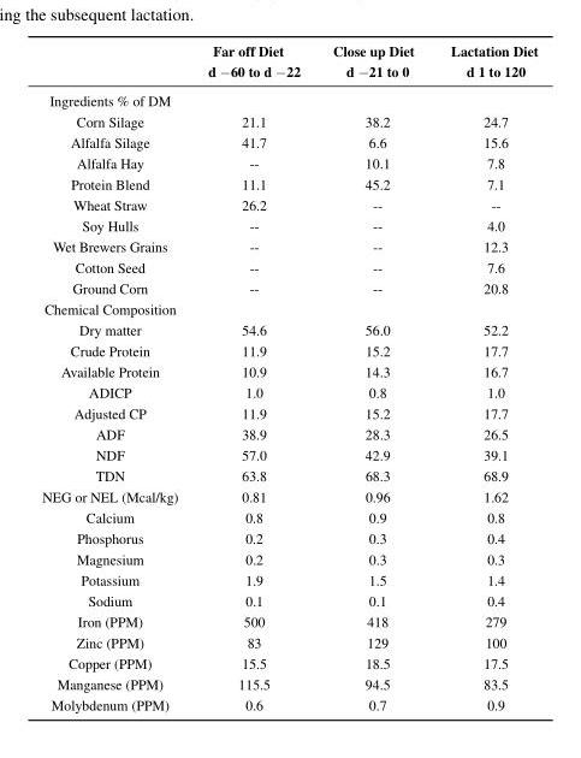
<table><thead><tr><td></td><td>Far off Diet d −60 to d −22</td><td>Close up Diet d −21 to 0</td><td>Lactation Diet d 1 to 120</td></tr></thead><tbody><tr><td colspan="4">Ingredients % of DM</td></tr><tr><td>Corn Silage</td><td>21.1</td><td>38.2</td><td>24.7</td></tr><tr><td>Alfalfa Silage</td><td>41.7</td><td>6.6</td><td>15.6</td></tr><tr><td>Alfalfa Hay</td><td>--</td><td>10.1</td><td>7.8</td></tr><tr><td>Protein Blend</td><td>11.1</td><td>45.2</td><td>7.1</td></tr><tr><td>Wheat Straw</td><td>26.2</td><td>--</td><td>--</td></tr><tr><td>Soy Hulls</td><td>--</td><td>--</td><td>4.0</td></tr><tr><td>Wet Brewers Grains</td><td>--</td><td>--</td><td>12.3</td></tr><tr><td>Cotton Seed</td><td>--</td><td>--</td><td>7.6</td></tr><tr><td>Ground Corn</td><td>--</td><td>--</td><td>20.8</td></tr><tr><td colspan="4">Chemical Composition</td></tr><tr><td>Dry matter</td><td>54.6</td><td>56.0</td><td>52.2</td></tr><tr><td>Crude Protein</td><td>11.9</td><td>15.2</td><td>17.7</td></tr><tr><td>Available Protein</td><td>10.9</td><td>14.3</td><td>16.7</td></tr><tr><td>ADICP</td><td>1.0</td><td>0.8</td><td>1.0</td></tr><tr><td>Adjusted CP</td><td>11.9</td><td>15.2</td><td>17.7</td></tr><tr><td>ADF</td><td>38.9</td><td>28.3</td><td>26.5</td></tr><tr><td>NDF</td><td>57.0</td><td>42.9</td><td>39.1</td></tr><tr><td>TDN</td><td>63.8</td><td>68.3</td><td>68.9</td></tr><tr><td>NEG or NEL (Mcal/kg)</td><td>0.81</td><td>0.96</td><td>1.62</td></tr><tr><td>Calcium</td><td>0.8</td><td>0.9</td><td>0.8</td></tr><tr><td>Phosphorus</td><td>0.2</td><td>0.3</td><td>0.4</td></tr><tr><td>Magnesium</td><td>0.2</td><td>0.3</td><td>0.3</td></tr><tr><td>Potassium</td><td>1.9</td><td>1.5</td><td>1.4</td></tr><tr><td>Sodium</td><td>0.1</td><td>0.1</td><td>0.4</td></tr><tr><td>Iron (PPM)</td><td>500</td><td>418</td><td>279</td></tr><tr><td>Zinc (PPM)</td><td>83</td><td>129</td><td>100</td></tr><tr><td>Copper (PPM)</td><td>15.5</td><td>18.5</td><td>17.5</td></tr><tr><td>Manganese (PPM)</td><td>115.5</td><td>94.5</td><td>83.5</td></tr><tr><td>Molybdenum (PPM)</td><td>0.6</td><td>0.7</td><td>0.9</td></tr></tbody></table>